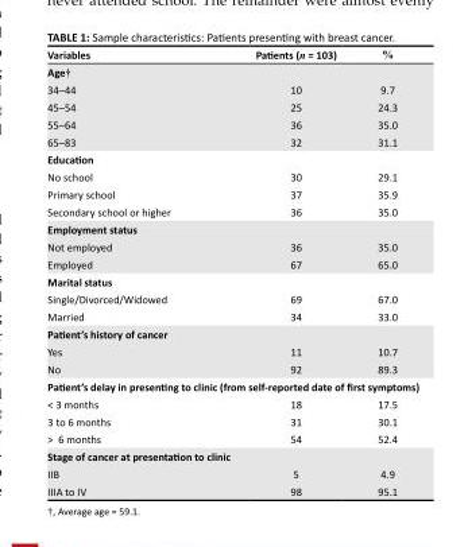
<table><thead><tr><td>Variables</td><td>Patients (n = 103)</td><td>%</td></tr></thead><tbody><tr><td colspan="3">Age†</td></tr><tr><td>34–44</td><td>10</td><td>9.7</td></tr><tr><td>45–54</td><td>25</td><td>24.3</td></tr><tr><td>55–64</td><td>36</td><td>35.0</td></tr><tr><td>65–83</td><td>32</td><td>31.1</td></tr><tr><td colspan="3">Education</td></tr><tr><td>No school</td><td>30</td><td>29.1</td></tr><tr><td>Primary school</td><td>37</td><td>35.9</td></tr><tr><td>Secondary school or higher</td><td>36</td><td>35.0</td></tr><tr><td colspan="3">Employment status</td></tr><tr><td>Not employed</td><td>36</td><td>35.0</td></tr><tr><td>Employed</td><td>67</td><td>65.0</td></tr><tr><td colspan="3">Marital status</td></tr><tr><td>Single/Divorced/Widowed</td><td>69</td><td>67.0</td></tr><tr><td>Married</td><td>34</td><td>33.0</td></tr><tr><td colspan="3">Patient’s history of cancer</td></tr><tr><td>Yes</td><td>11</td><td>10.7</td></tr><tr><td>No</td><td>92</td><td>89.3</td></tr><tr><td colspan="3">Patient’s delay in presenting to clinic (from self-reported date of first symptoms)</td></tr><tr><td>&lt; 3 months</td><td>18</td><td>17.5</td></tr><tr><td>3 to 6 months</td><td>31</td><td>30.1</td></tr><tr><td>&gt; 6 months</td><td>54</td><td>52.4</td></tr><tr><td colspan="3">Stage of cancer at presentation to clinic</td></tr><tr><td>IIB</td><td>5</td><td>4.9</td></tr><tr><td>IIIA to IV</td><td>98</td><td>95.1</td></tr></tbody></table>